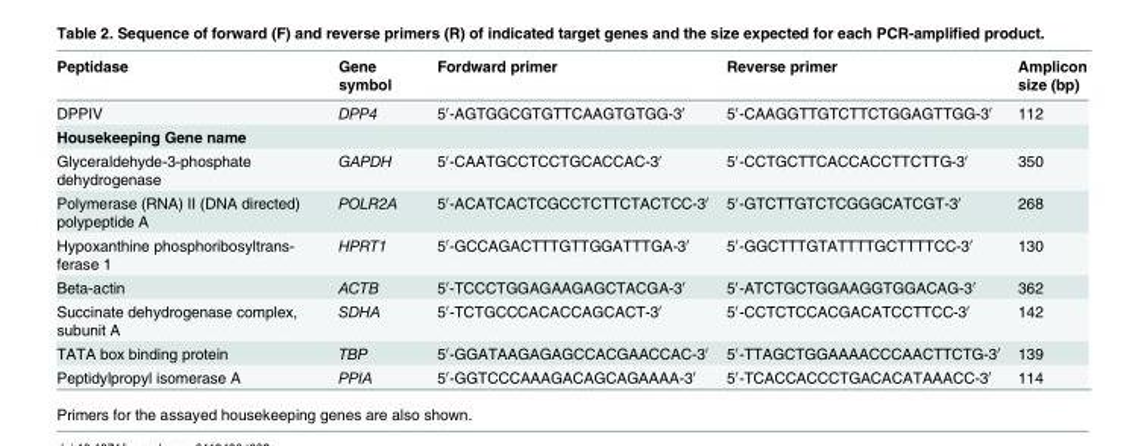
<table><thead><tr><td>Peptidase</td><td>Gene symbol</td><td>Fordward primer</td><td>Reverse primer</td><td>Amplicon size (bp)</td></tr></thead><tbody><tr><td>DPPIV</td><td>DPP4</td><td>5′-AGTGGCGTGTTCAAGTGTGG-3′</td><td>5′-CAAGGTTGTCTTCTGGAGTTGG-3′</td><td>112</td></tr><tr><td colspan="5">Housekeeping Gene name</td></tr><tr><td>Glyceraldehyde-3-phosphate dehydrogenase</td><td>GAPDH</td><td>5′-CAATGCCTCCTGCACCAC-3′</td><td>5′-CCTGCTTCACCACCTTCTTG-3′</td><td>350</td></tr><tr><td>Polymerase (RNA) II (DNA directed) polypeptide A</td><td>POLR2A</td><td>5′-ACATCACTCGCCTCTTCTACTCC-3′</td><td>5′-GTCTTGTCTCGGGCATCGT-3′</td><td>268</td></tr><tr><td>Hypoxanthine phosphoribosyltrans- ferase 1</td><td>HPRT1</td><td>5′-GCCAGACTTTGTTGGATTTGA-3′</td><td>5′-GGCTTTGTATTTTGCTTTTCC-3′</td><td>130</td></tr><tr><td>Beta-actin</td><td>ACTB</td><td>5′-TCCCTGGAGAAGAGCTACGA-3′</td><td>5′-ATCTGCTGGAAGGTGGACAG-3′</td><td>362</td></tr><tr><td>Succinate dehydrogenase complex, subunit A</td><td>SDHA</td><td>5′-TCTGCCCACACCAGCACT-3′</td><td>5′-CCTCTCCACGACATCCTTCC-3′</td><td>142</td></tr><tr><td>TATA box binding protein</td><td>TBP</td><td>5′-GGATAAGAGAGCCACGAACCAC-3′</td><td>5′-TTAGCTGGAAAACCCAACTTCTG-3′</td><td>139</td></tr><tr><td>Peptidylpropyl isomerase A</td><td>PPIA</td><td>5′-GGTCCCAAAGACAGCAGAAAA-3′</td><td>5′-TCACCACCCTGACACATAAACC-3′</td><td>114</td></tr></tbody></table>